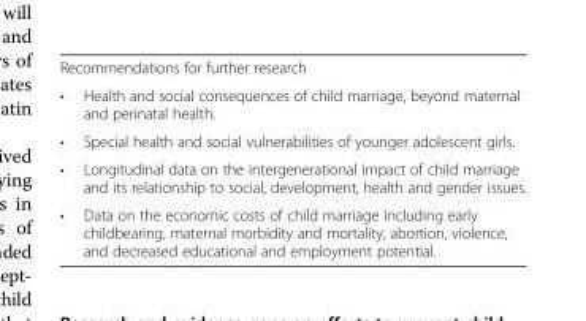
<table><tbody><tr><td colspan="2">Recommendations for further research</td></tr><tr><td>•</td><td>Health and social consequences of child marriage, beyond maternal and perinatal health.</td></tr><tr><td>•</td><td>Special health and social vulnerabilities of younger adolescent girls.</td></tr><tr><td>•</td><td>Longitudinal data on the intergenerational impact of child marriage and its relationship to social, development, health and gender issues.</td></tr><tr><td>•</td><td>Data on the economic costs of child marriage including early childbearing, maternal morbidity and mortality, abortion, violence, and decreased educational and employment potential.</td></tr></tbody></table>